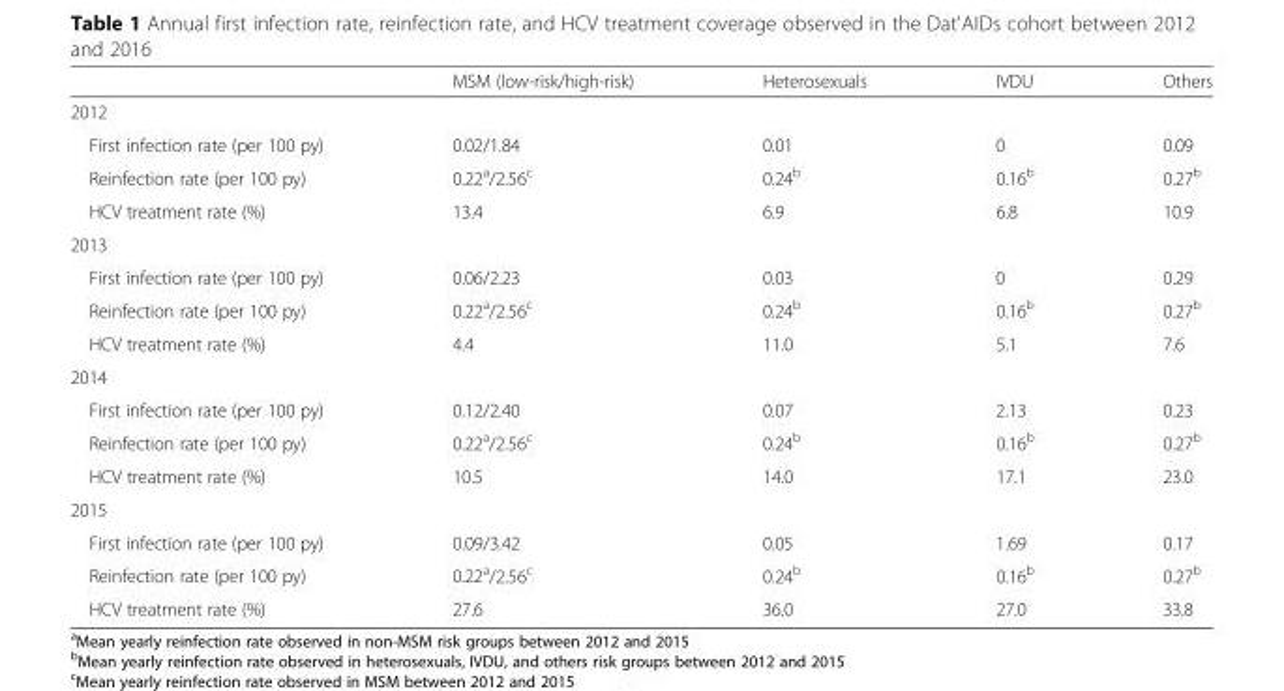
<table><thead><tr><td></td><td>MSM (low-risk/high-risk)</td><td>Heterosexuals</td><td>IVDU</td><td>Others</td></tr></thead><tbody><tr><td colspan="5">2012</td></tr><tr><td>First infection rate (per 100 py)</td><td>0.02/1.84</td><td>0.01</td><td>0</td><td>0.09</td></tr><tr><td>Reinfection rate (per 100 py)</td><td>0.22<sup>a</sup>/2.56<sup>c</sup></td><td>0.24<sup>b</sup></td><td>0.16<sup>b</sup></td><td>0.27<sup>b</sup></td></tr><tr><td>HCV treatment rate (%)</td><td>13.4</td><td>6.9</td><td>6.8</td><td>10.9</td></tr><tr><td colspan="5">2013</td></tr><tr><td>First infection rate (per 100 py)</td><td>0.06/2.23</td><td>0.03</td><td>0</td><td>0.29</td></tr><tr><td>Reinfection rate (per 100 py)</td><td>0.22<sup>a</sup>/2.56<sup>c</sup></td><td>0.24<sup>b</sup></td><td>0.16<sup>b</sup></td><td>0.27<sup>b</sup></td></tr><tr><td>HCV treatment rate (%)</td><td>4.4</td><td>11.0</td><td>5.1</td><td>7.6</td></tr><tr><td colspan="5">2014</td></tr><tr><td>First infection rate (per 100 py)</td><td>0.12/2.40</td><td>0.07</td><td>2.13</td><td>0.23</td></tr><tr><td>Reinfection rate (per 100 py)</td><td>0.22<sup>a</sup>/2.56<sup>c</sup></td><td>0.24<sup>b</sup></td><td>0.16<sup>b</sup></td><td>0.27<sup>b</sup></td></tr><tr><td>HCV treatment rate (%)</td><td>10.5</td><td>14.0</td><td>17.1</td><td>23.0</td></tr><tr><td colspan="5">2015</td></tr><tr><td>First infection rate (per 100 py)</td><td>0.09/3.42</td><td>0.05</td><td>1.69</td><td>0.17</td></tr><tr><td>Reinfection rate (per 100 py)</td><td>0.22<sup>a</sup>/2.56<sup>c</sup></td><td>0.24<sup>b</sup></td><td>0.16<sup>b</sup></td><td>0.27<sup>b</sup></td></tr><tr><td>HCV treatment rate (%)</td><td>27.6</td><td>36.0</td><td>27.0</td><td>33.8</td></tr></tbody></table>